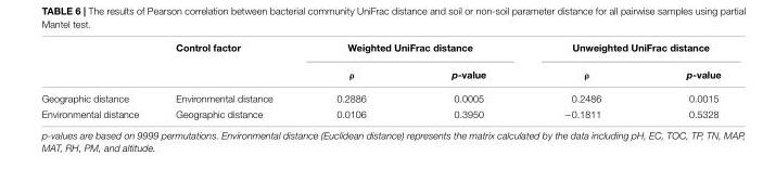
<table><thead><tr><td rowspan="2"></td><td rowspan="2">Control factor</td><td colspan="2">Weighted UniFrac distance</td><td colspan="2">Unweighted UniFrac distance</td></tr><tr><td>ρ</td><td>p-value</td><td>ρ</td><td>p-value</td></tr></thead><tbody><tr><td>Geographic distance</td><td>Environmental distance</td><td>0.2886</td><td>0.0005</td><td>0.2486</td><td>0.0015</td></tr><tr><td>Environmental distance</td><td>Geographic distance</td><td>0.0106</td><td>0.3950</td><td>−0.1811</td><td>0.5328</td></tr></tbody></table>